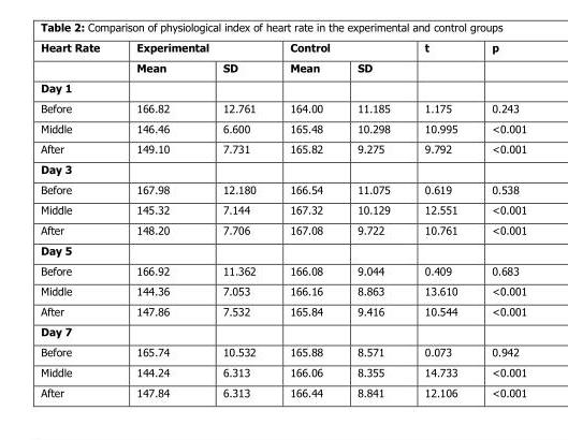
<table><thead><tr><td rowspan="2">Heart Rate</td><td colspan="2">Experimental</td><td colspan="2">Control</td><td rowspan="2">t</td><td rowspan="2">p</td></tr><tr><td>Mean</td><td>SD</td><td>Mean</td><td>SD</td></tr></thead><tbody><tr><td colspan="7">Day 1</td></tr><tr><td>Before</td><td>166.82</td><td>12.761</td><td>164.00</td><td>11.185</td><td>1.175</td><td>0.243</td></tr><tr><td>Middle</td><td>146.46</td><td>6.600</td><td>165.48</td><td>10.298</td><td>10.995</td><td>&lt;0.001</td></tr><tr><td>After</td><td>149.10</td><td>7.731</td><td>165.82</td><td>9.275</td><td>9.792</td><td>&lt;0.001</td></tr><tr><td colspan="7">Day 3</td></tr><tr><td>Before</td><td>167.98</td><td>12.180</td><td>166.54</td><td>11.075</td><td>0.619</td><td>0.538</td></tr><tr><td>Middle</td><td>145.32</td><td>7.144</td><td>167.32</td><td>10.129</td><td>12.551</td><td>&lt;0.001</td></tr><tr><td>After</td><td>148.20</td><td>7.706</td><td>167.08</td><td>9.722</td><td>10.761</td><td>&lt;0.001</td></tr><tr><td colspan="7">Day 5</td></tr><tr><td>Before</td><td>166.92</td><td>11.362</td><td>166.08</td><td>9.044</td><td>0.409</td><td>0.683</td></tr><tr><td>Middle</td><td>144.36</td><td>7.053</td><td>166.16</td><td>8.863</td><td>13.610</td><td>&lt;0.001</td></tr><tr><td>After</td><td>147.86</td><td>7.532</td><td>165.84</td><td>9.416</td><td>10.544</td><td>&lt;0.001</td></tr><tr><td colspan="7">Day 7</td></tr><tr><td>Before</td><td>165.74</td><td>10.532</td><td>165.88</td><td>8.571</td><td>0.073</td><td>0.942</td></tr><tr><td>Middle</td><td>144.24</td><td>6.313</td><td>166.06</td><td>8.355</td><td>14.733</td><td>&lt;0.001</td></tr><tr><td>After</td><td>147.84</td><td>6.313</td><td>166.44</td><td>8.841</td><td>12.106</td><td>&lt;0.001</td></tr></tbody></table>